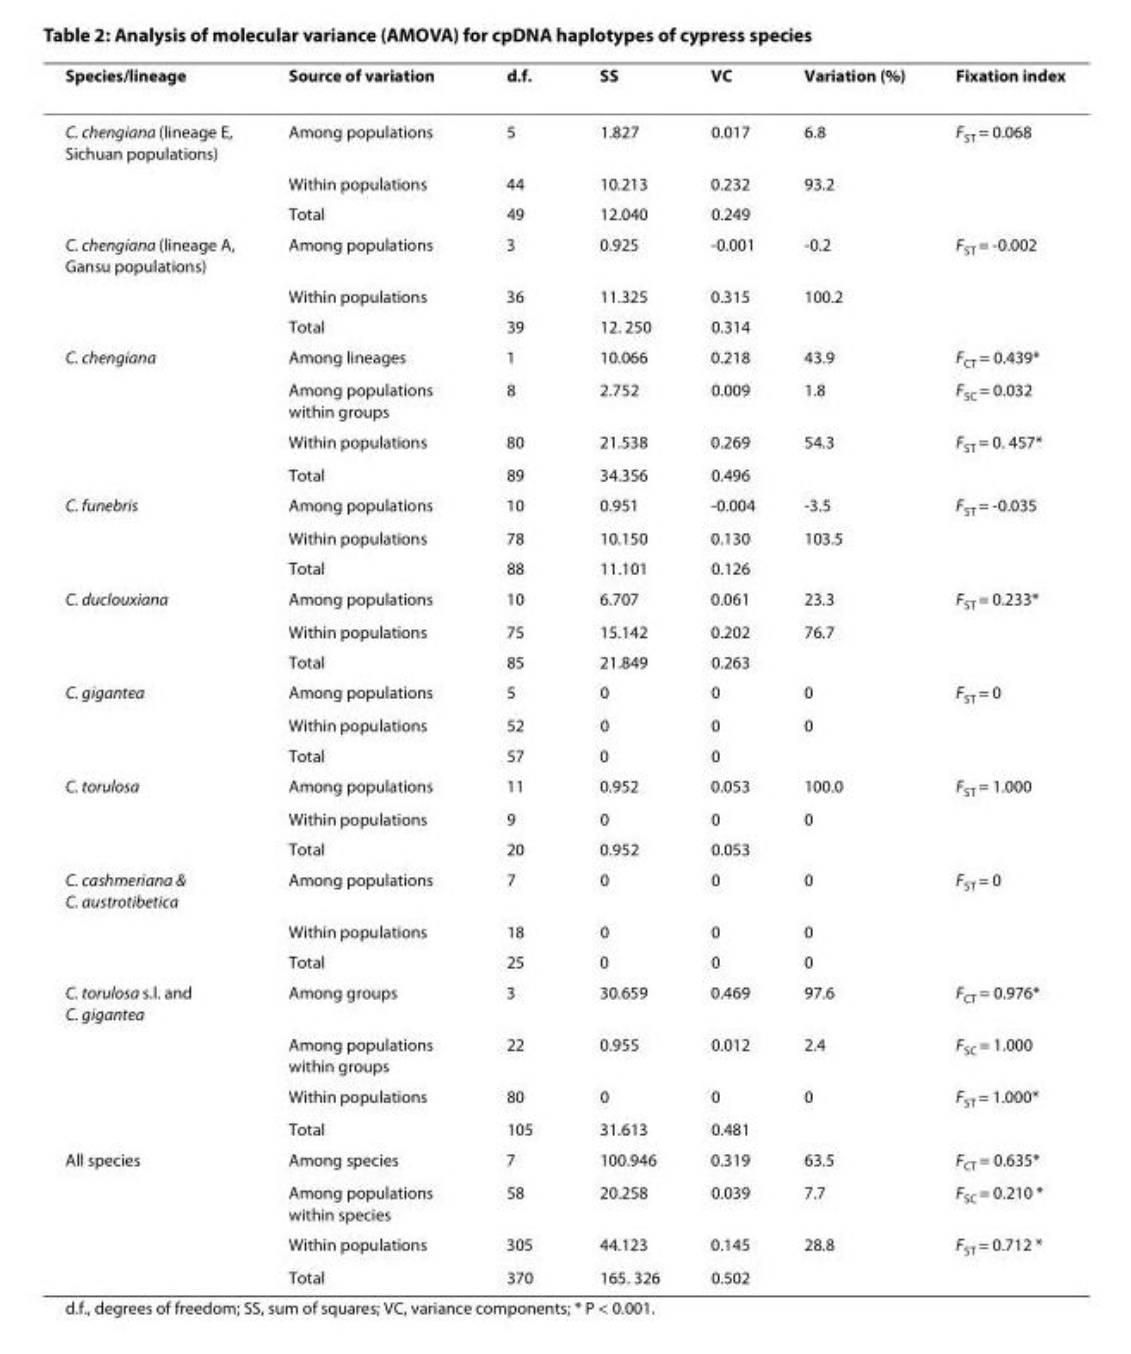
<table><thead><tr><td>Species/lineage</td><td>Source of variation</td><td>d.f.</td><td>SS</td><td>VC</td><td>Variation (%)</td><td>Fixation index</td></tr></thead><tbody><tr><td rowspan="3">C. chengiana (lineage E, Sichuan populations)</td><td>Among populations</td><td>5</td><td>1.827</td><td>0.017</td><td>6.8</td><td>F<sub>ST</sub> = 0.068</td></tr><tr><td>Within populations</td><td>44</td><td>10.213</td><td>0.232</td><td>93.2</td><td></td></tr><tr><td>Total</td><td>49</td><td>12.040</td><td>0.249</td><td></td><td></td></tr><tr><td rowspan="3">C. chengiana (lineage A, Gansu populations)</td><td>Among populations</td><td>3</td><td>0.925</td><td>-0.001</td><td>-0.2</td><td>F<sub>ST</sub> = -0.002</td></tr><tr><td>Within populations</td><td>36</td><td>11.325</td><td>0.315</td><td>100.2</td><td></td></tr><tr><td>Total</td><td>39</td><td>12. 250</td><td>0.314</td><td></td><td></td></tr><tr><td rowspan="4">C. chengiana</td><td>Among lineages</td><td>1</td><td>10.066</td><td>0.218</td><td>43.9</td><td>F<sub>CT</sub> = 0.439*</td></tr><tr><td>Among populations within groups</td><td>8</td><td>2.752</td><td>0.009</td><td>1.8</td><td>F<sub>SC</sub> = 0.032</td></tr><tr><td>Within populations</td><td>80</td><td>21.538</td><td>0.269</td><td>54.3</td><td>F<sub>ST</sub> = 0. 457*</td></tr><tr><td>Total</td><td>89</td><td>34.356</td><td>0.496</td><td></td><td></td></tr><tr><td rowspan="3">C. funebris</td><td>Among populations</td><td>10</td><td>0.951</td><td>-0.004</td><td>-3.5</td><td>F<sub>ST</sub> = -0.035</td></tr><tr><td>Within populations</td><td>78</td><td>10.150</td><td>0.130</td><td>103.5</td><td></td></tr><tr><td>Total</td><td>88</td><td>11.101</td><td>0.126</td><td></td><td></td></tr><tr><td rowspan="3">C. duclouxiana</td><td>Among populations</td><td>10</td><td>6.707</td><td>0.061</td><td>23.3</td><td>F<sub>ST</sub> = 0.233*</td></tr><tr><td>Within populations</td><td>75</td><td>15.142</td><td>0.202</td><td>76.7</td><td></td></tr><tr><td>Total</td><td>85</td><td>21.849</td><td>0.263</td><td></td><td></td></tr><tr><td rowspan="3">C. gigantea</td><td>Among populations</td><td>5</td><td>0</td><td>0</td><td>0</td><td>F<sub>ST</sub> = 0</td></tr><tr><td>Within populations</td><td>52</td><td>0</td><td>0</td><td>0</td><td></td></tr><tr><td>Total</td><td>57</td><td>0</td><td>0</td><td></td><td></td></tr><tr><td rowspan="3">C. torulosa</td><td>Among populations</td><td>11</td><td>0.952</td><td>0.053</td><td>100.0</td><td>F<sub>ST</sub> = 1.000</td></tr><tr><td>Within populations</td><td>9</td><td>0</td><td>0</td><td>0</td><td></td></tr><tr><td>Total</td><td>20</td><td>0.952</td><td>0.053</td><td></td><td></td></tr><tr><td rowspan="3">C. cashmeriana &amp; C. austrotibetica</td><td>Among populations</td><td>7</td><td>0</td><td>0</td><td>0</td><td>F<sub>ST</sub> = 0</td></tr><tr><td>Within populations</td><td>18</td><td>0</td><td>0</td><td>0</td><td></td></tr><tr><td>Total</td><td>25</td><td>0</td><td>0</td><td>0</td><td></td></tr><tr><td rowspan="4">C. torulosa s.l. and C. gigantea</td><td>Among groups</td><td>3</td><td>30.659</td><td>0.469</td><td>97.6</td><td>F<sub>CT</sub> = 0.976*</td></tr><tr><td>Among populations within groups</td><td>22</td><td>0.955</td><td>0.012</td><td>2.4</td><td>F<sub>SC</sub> = 1.000</td></tr><tr><td>Within populations</td><td>80</td><td>0</td><td>0</td><td>0</td><td>F<sub>ST</sub> = 1.000*</td></tr><tr><td>Total</td><td>105</td><td>31.613</td><td>0.481</td><td></td><td></td></tr><tr><td rowspan="4">All species</td><td>Among species</td><td>7</td><td>100.946</td><td>0.319</td><td>63.5</td><td>F<sub>CT</sub> = 0.635*</td></tr><tr><td>Among populations within species</td><td>58</td><td>20.258</td><td>0.039</td><td>7.7</td><td>F<sub>SC</sub> = 0.210 *</td></tr><tr><td>Within populations</td><td>305</td><td>44.123</td><td>0.145</td><td>28.8</td><td>F<sub>ST</sub> = 0.712 *</td></tr><tr><td>Total</td><td>370</td><td>165. 326</td><td>0.502</td><td></td><td></td></tr></tbody></table>